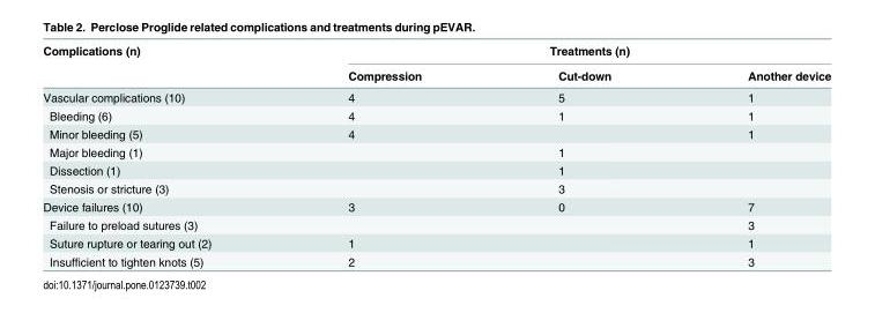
<table><thead><tr><td rowspan="2">Complications (n)</td><td colspan="3">Treatments (n)</td></tr><tr><td>Compression</td><td>Cut-down</td><td>Another device</td></tr></thead><tbody><tr><td>Vascular complications (10)</td><td>4</td><td>5</td><td>1</td></tr><tr><td>Bleeding (6)</td><td>4</td><td>1</td><td>1</td></tr><tr><td>Minor bleeding (5)</td><td>4</td><td></td><td>1</td></tr><tr><td>Major bleeding (1)</td><td></td><td>1</td><td></td></tr><tr><td>Dissection (1)</td><td></td><td>1</td><td></td></tr><tr><td>Stenosis or stricture (3)</td><td></td><td>3</td><td></td></tr><tr><td>Device failures (10)</td><td>3</td><td>0</td><td>7</td></tr><tr><td>Failure to preload sutures (3)</td><td></td><td></td><td>3</td></tr><tr><td>Suture rupture or tearing out (2)</td><td>1</td><td></td><td>1</td></tr><tr><td>Insufficient to tighten knots (5)</td><td>2</td><td></td><td>3</td></tr></tbody></table>